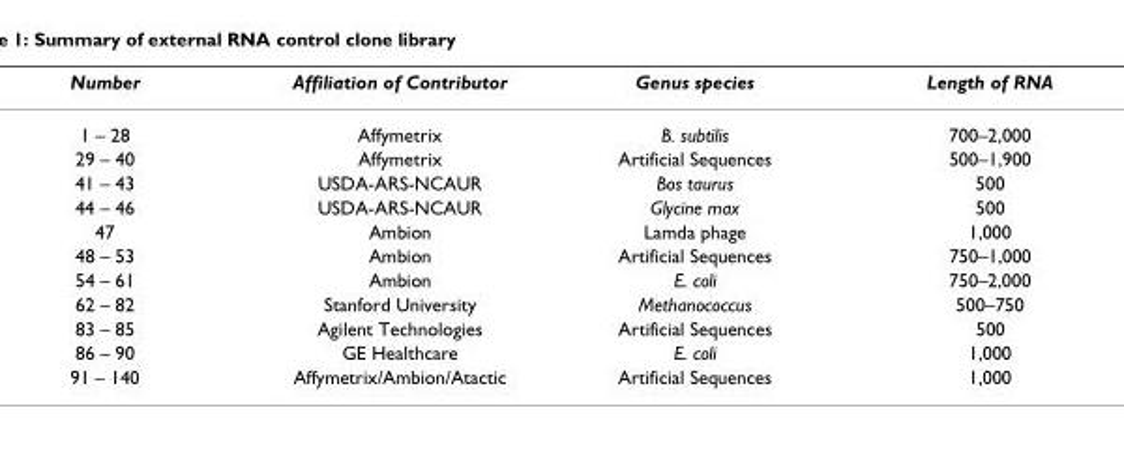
<table><thead><tr><td>Number</td><td>Affiliation of Contributor</td><td>Genus species</td><td>Length of RNA</td></tr></thead><tbody><tr><td>1 – 28</td><td>Affymetrix</td><td>B. subtilis</td><td>700–2,000</td></tr><tr><td>29 – 40</td><td>Affymetrix</td><td>Artificial Sequences</td><td>500–1,900</td></tr><tr><td>41 – 43</td><td>USDA-ARS-NCAUR</td><td>Bos taurus</td><td>500</td></tr><tr><td>44 – 46</td><td>USDA-ARS-NCAUR</td><td>Glycine max</td><td>500</td></tr><tr><td>47</td><td>Ambion</td><td>Lamda phage</td><td>1,000</td></tr><tr><td>48 – 53</td><td>Ambion</td><td>Artificial Sequences</td><td>750–1,000</td></tr><tr><td>54 – 61</td><td>Ambion</td><td>E. coli</td><td>750–2,000</td></tr><tr><td>62 – 82</td><td>Stanford University</td><td>Methanococcus</td><td>500–750</td></tr><tr><td>83 – 85</td><td>Agilent Technologies</td><td>Artificial Sequences</td><td>500</td></tr><tr><td>86 – 90</td><td>GE Healthcare</td><td>E. coli</td><td>1,000</td></tr><tr><td>91 – 140</td><td>Affymetrix/Ambion/Atactic</td><td>Artificial Sequences</td><td>1,000</td></tr></tbody></table>